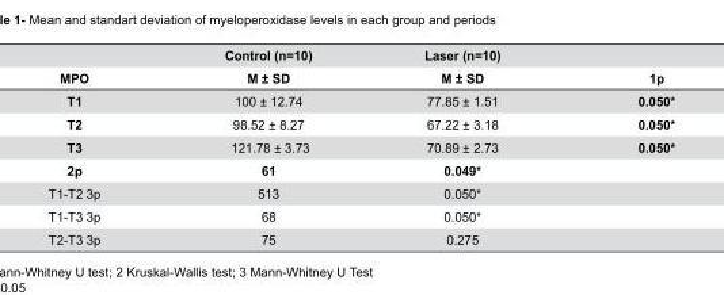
<table><thead><tr><td rowspan="2">MPO</td><td rowspan="2">Control (n=10) M ± SD</td><td rowspan="2">Laser (n=10) M ± SD</td><td rowspan="2">1p</td></tr><tr></tr></thead><tbody><tr><td>T1</td><td>100 ± 12.74</td><td>77.85 ± 1.51</td><td>0.050*</td></tr><tr><td>T2</td><td>98.52 ± 8.27</td><td>67.22 ± 3.18</td><td>0.050*</td></tr><tr><td>T3</td><td>121.78 ± 3.73</td><td>70.89 ± 2.73</td><td>0.050*</td></tr><tr><td>2p</td><td>61</td><td>0.049*</td><td></td></tr><tr><td>T1-T2 3p</td><td>513</td><td>0.050*</td><td></td></tr><tr><td>T1-T3 3p</td><td>68</td><td>0.050*</td><td></td></tr><tr><td>T2-T3 3p</td><td>75</td><td>0.275</td><td></td></tr></tbody></table>